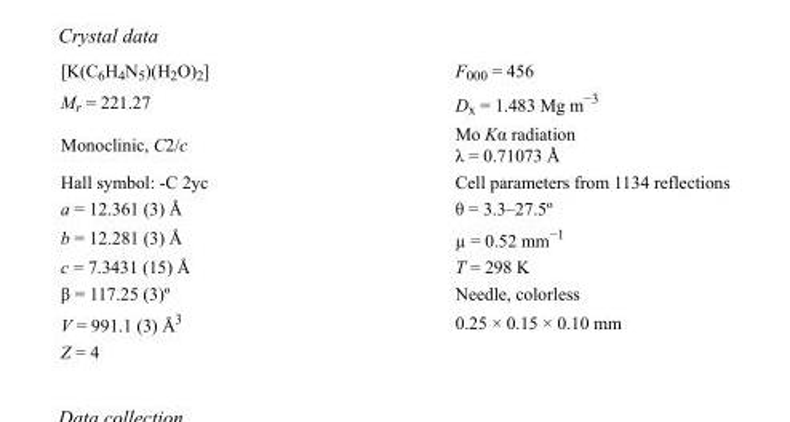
<table><tbody><tr><td>[K(C<sub>6</sub>H<sub>4</sub>N<sub>5</sub>)(H<sub>2</sub>O)<sub>2</sub>]</td><td>F000 = 456</td></tr><tr><td>M<sub>r</sub> = 221.27</td><td>D<sub>x</sub> = 1.483 Mg m<sup>−3</sup></td></tr><tr><td>Monoclinic, C2/c</td><td>Mo Kα radiation λ = 0.71073 Å</td></tr><tr><td>Hall symbol: -C 2yc</td><td>Cell parameters from 1134 reflections</td></tr><tr><td>a = 12.361 (3) Å</td><td>θ = 3.3–27.5º</td></tr><tr><td>b = 12.281 (3) Å</td><td>µ = 0.52 mm<sup>−1</sup></td></tr><tr><td>c = 7.3431 (15) Å</td><td>T = 298 K</td></tr><tr><td>β = 117.25 (3)º</td><td>Needle, colorless</td></tr><tr><td>V = 991.1 (3) Å<sup>3</sup></td><td>0.25 × 0.15 × 0.10 mm</td></tr><tr><td>Z = 4</td><td></td></tr></tbody></table>